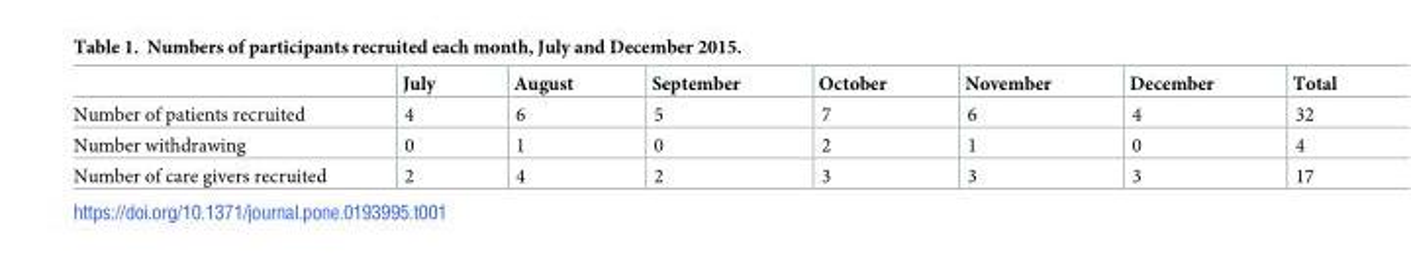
<table><thead><tr><td></td><td>July</td><td>August</td><td>September</td><td>October</td><td>November</td><td>December</td><td>Total</td></tr></thead><tbody><tr><td>Number of patients recruited</td><td>4</td><td>6</td><td>5</td><td>7</td><td>6</td><td>4</td><td>32</td></tr><tr><td>Number withdrawing</td><td>0</td><td>1</td><td>0</td><td>2</td><td>1</td><td>0</td><td>4</td></tr><tr><td>Number of care givers recruited</td><td>2</td><td>4</td><td>2</td><td>3</td><td>3</td><td>3</td><td>17</td></tr></tbody></table>